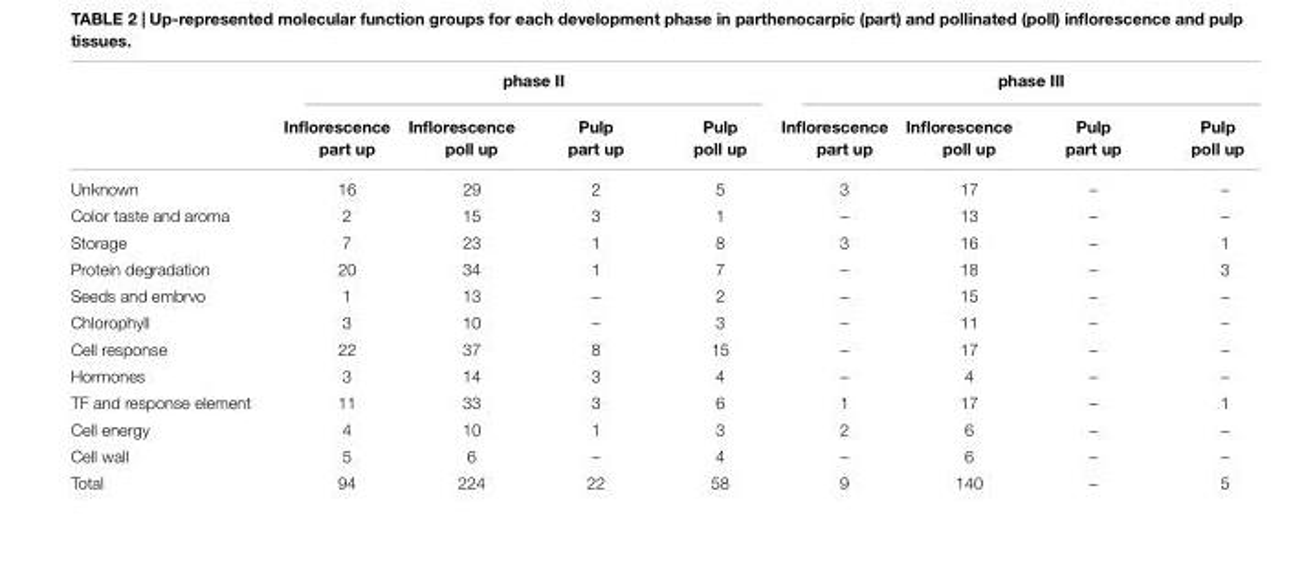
<table><thead><tr><td rowspan="2"></td><td colspan="4">phase II</td><td colspan="4">phase III</td></tr><tr><td>Inflorescence part up</td><td>Inflorescence poll up</td><td>Pulp part up</td><td>Pulp poll up</td><td>Inflorescence part up</td><td>Inflorescence poll up</td><td>Pulp part up</td><td>Pulp poll up</td></tr></thead><tbody><tr><td>Unknown</td><td>16</td><td>29</td><td>2</td><td>5</td><td>3</td><td>17</td><td>–</td><td>–</td></tr><tr><td>Color taste and aroma</td><td>2</td><td>15</td><td>3</td><td>1</td><td>–</td><td>13</td><td>–</td><td>–</td></tr><tr><td>Storage</td><td>7</td><td>23</td><td>1</td><td>8</td><td>3</td><td>16</td><td>–</td><td>1</td></tr><tr><td>Protein degradation</td><td>20</td><td>34</td><td>1</td><td>7</td><td>–</td><td>18</td><td>–</td><td>3</td></tr><tr><td>Seeds and embrvo</td><td>1</td><td>13</td><td>–</td><td>2</td><td>–</td><td>15</td><td>–</td><td>–</td></tr><tr><td>Chlorophyll</td><td>3</td><td>10</td><td>–</td><td>3</td><td>–</td><td>11</td><td>–</td><td>–</td></tr><tr><td>Cell response</td><td>22</td><td>37</td><td>8</td><td>15</td><td>–</td><td>17</td><td>–</td><td>–</td></tr><tr><td>Hormones</td><td>3</td><td>14</td><td>3</td><td>4</td><td>–</td><td>4</td><td>–</td><td>–</td></tr><tr><td>TF and response element</td><td>11</td><td>33</td><td>3</td><td>6</td><td>1</td><td>17</td><td>–</td><td>1</td></tr><tr><td>Cell energy</td><td>4</td><td>10</td><td>1</td><td>3</td><td>2</td><td>6</td><td>–</td><td>–</td></tr><tr><td>Cell wall</td><td>5</td><td>6</td><td>–</td><td>4</td><td>–</td><td>6</td><td>–</td><td>–</td></tr><tr><td>Total</td><td>94</td><td>224</td><td>22</td><td>58</td><td>9</td><td>140</td><td>–</td><td>5</td></tr></tbody></table>